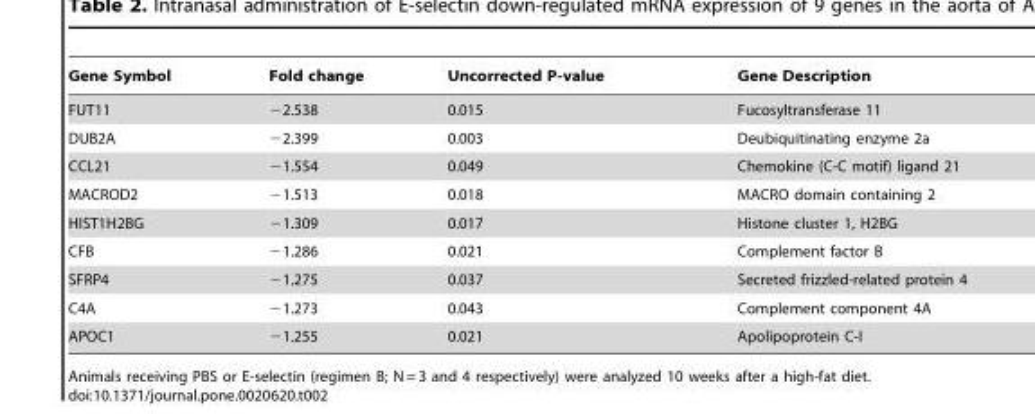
<table><thead><tr><td>Gene Symbol</td><td>Fold change</td><td>Uncorrected P-value</td><td>Gene Description</td></tr></thead><tbody><tr><td>FUT11</td><td>−2.538</td><td>0.015</td><td>Fucosyltransferase 11</td></tr><tr><td>DUB2A</td><td>−2.399</td><td>0.003</td><td>Deubiquitinating enzyme 2a</td></tr><tr><td>CCL21</td><td>−1.554</td><td>0.049</td><td>Chemokine (C-C motif) ligand 21</td></tr><tr><td>MACROD2</td><td>−1.513</td><td>0.018</td><td>MACRO domain containing 2</td></tr><tr><td>HIST1H2BG</td><td>−1.309</td><td>0.017</td><td>Histone cluster 1, H2BG</td></tr><tr><td>CFB</td><td>−1.286</td><td>0.021</td><td>Complement factor B</td></tr><tr><td>SFRP4</td><td>−1.275</td><td>0.037</td><td>Secreted frizzled-related protein 4</td></tr><tr><td>C4A</td><td>−1.273</td><td>0.043</td><td>Complement component 4A</td></tr><tr><td>APOC1</td><td>−1.255</td><td>0.021</td><td>Apolipoprotein C-I</td></tr></tbody></table>